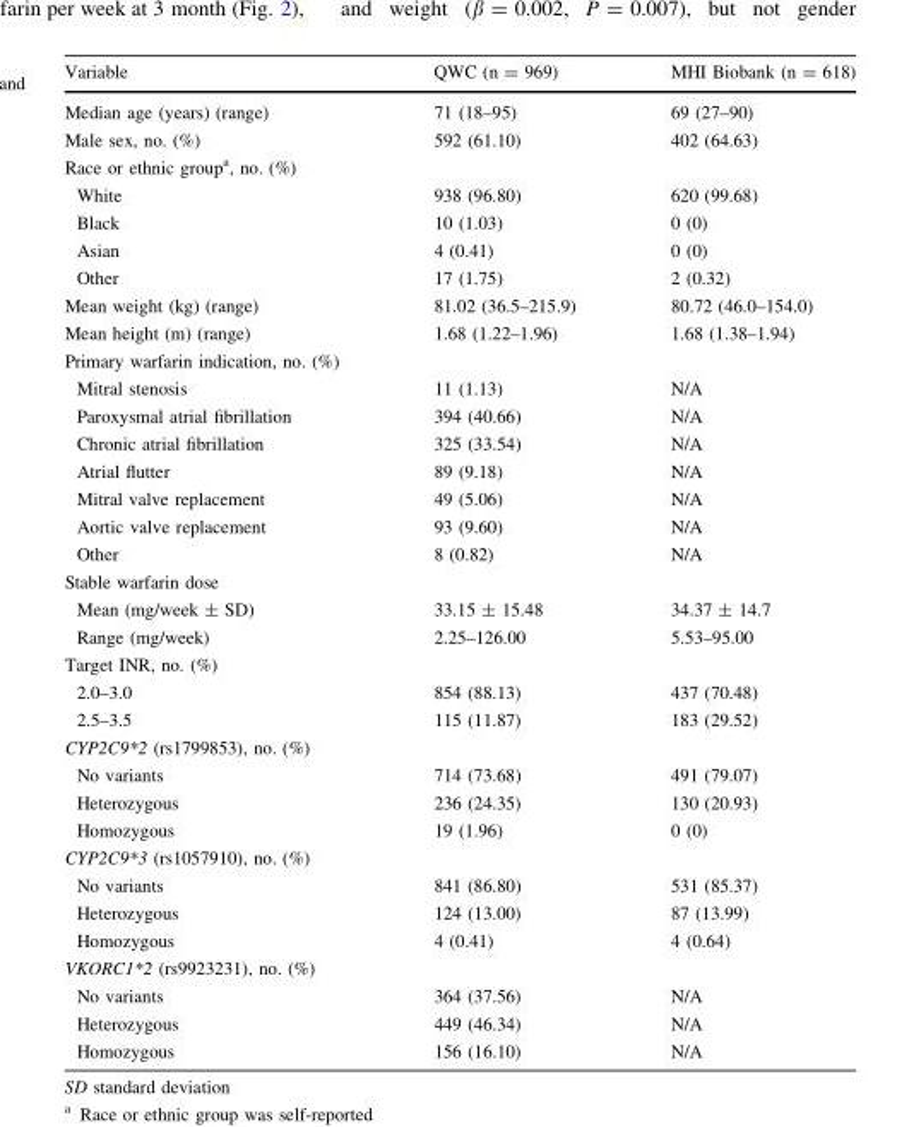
<table><thead><tr><td>Variable</td><td>QWC (n = 969)</td><td>MHI Biobank (n = 618)</td></tr></thead><tbody><tr><td>Median age (years) (range)</td><td>71 (18–95)</td><td>69 (27–90)</td></tr><tr><td>Male sex, no. (%)</td><td>592 (61.10)</td><td>402 (64.63)</td></tr><tr><td colspan="3">Race or ethnic group<sup>a</sup>, no. (%)</td></tr><tr><td>White</td><td>938 (96.80)</td><td>620 (99.68)</td></tr><tr><td>Black</td><td>10 (1.03)</td><td>0 (0)</td></tr><tr><td>Asian</td><td>4 (0.41)</td><td>0 (0)</td></tr><tr><td>Other</td><td>17 (1.75)</td><td>2 (0.32)</td></tr><tr><td>Mean weight (kg) (range)</td><td>81.02 (36.5–215.9)</td><td>80.72 (46.0–154.0)</td></tr><tr><td>Mean height (m) (range)</td><td>1.68 (1.22–1.96)</td><td>1.68 (1.38–1.94)</td></tr><tr><td colspan="3">Primary warfarin indication, no. (%)</td></tr><tr><td>Mitral stenosis</td><td>11 (1.13)</td><td>N/A</td></tr><tr><td>Paroxysmal atrial fibrillation</td><td>394 (40.66)</td><td>N/A</td></tr><tr><td>Chronic atrial fibrillation</td><td>325 (33.54)</td><td>N/A</td></tr><tr><td>Atrial flutter</td><td>89 (9.18)</td><td>N/A</td></tr><tr><td>Mitral valve replacement</td><td>49 (5.06)</td><td>N/A</td></tr><tr><td>Aortic valve replacement</td><td>93 (9.60)</td><td>N/A</td></tr><tr><td>Other</td><td>8 (0.82)</td><td>N/A</td></tr><tr><td colspan="3">Stable warfarin dose</td></tr><tr><td>Mean (mg/week ± SD)</td><td>33.15 ± 15.48</td><td>34.37 ± 14.7</td></tr><tr><td>Range (mg/week)</td><td>2.25–126.00</td><td>5.53–95.00</td></tr><tr><td colspan="3">Target INR, no. (%)</td></tr><tr><td>2.0–3.0</td><td>854 (88.13)</td><td>437 (70.48)</td></tr><tr><td>2.5–3.5</td><td>115 (11.87)</td><td>183 (29.52)</td></tr><tr><td colspan="3">CYP2C9*2 (rs1799853), no. (%)</td></tr><tr><td>No variants</td><td>714 (73.68)</td><td>491 (79.07)</td></tr><tr><td>Heterozygous</td><td>236 (24.35)</td><td>130 (20.93)</td></tr><tr><td>Homozygous</td><td>19 (1.96)</td><td>0 (0)</td></tr><tr><td colspan="3">CYP2C9*3 (rs1057910), no. (%)</td></tr><tr><td>No variants</td><td>841 (86.80)</td><td>531 (85.37)</td></tr><tr><td>Heterozygous</td><td>124 (13.00)</td><td>87 (13.99)</td></tr><tr><td>Homozygous</td><td>4 (0.41)</td><td>4 (0.64)</td></tr><tr><td colspan="3">VKORC1*2 (rs9923231), no. (%)</td></tr><tr><td>No variants</td><td>364 (37.56)</td><td>N/A</td></tr><tr><td>Heterozygous</td><td>449 (46.34)</td><td>N/A</td></tr><tr><td>Homozygous</td><td>156 (16.10)</td><td>N/A</td></tr></tbody></table>